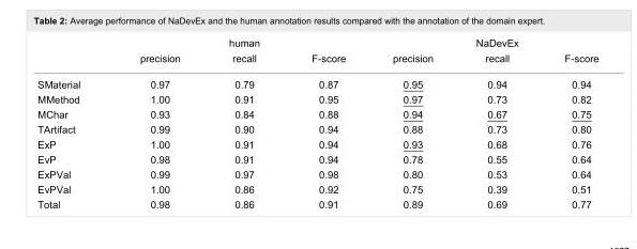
<table><thead><tr><td rowspan="2"></td><td colspan="3">human</td><td colspan="3">NaDevEx</td></tr><tr><td>precision</td><td>recall</td><td>F-score</td><td>precision</td><td>recall</td><td>F-score</td></tr></thead><tbody><tr><td>SMaterial</td><td>0.97</td><td>0.79</td><td>0.87</td><td>0.95</td><td>0.94</td><td>0.94</td></tr><tr><td>MMethod</td><td>1.00</td><td>0.91</td><td>0.95</td><td>0.97</td><td>0.73</td><td>0.82</td></tr><tr><td>MChar</td><td>0.93</td><td>0.84</td><td>0.88</td><td>0.94</td><td>0.67</td><td>0.75</td></tr><tr><td>TArtifact</td><td>0.99</td><td>0.90</td><td>0.94</td><td>0.88</td><td>0.73</td><td>0.80</td></tr><tr><td>ExP</td><td>1.00</td><td>0.91</td><td>0.94</td><td>0.93</td><td>0.68</td><td>0.76</td></tr><tr><td>EvP</td><td>0.98</td><td>0.91</td><td>0.94</td><td>0.78</td><td>0.55</td><td>0.64</td></tr><tr><td>ExPVal</td><td>0.99</td><td>0.97</td><td>0.98</td><td>0.80</td><td>0.53</td><td>0.64</td></tr><tr><td>EvPVal</td><td>1.00</td><td>0.86</td><td>0.92</td><td>0.75</td><td>0.39</td><td>0.51</td></tr><tr><td>Total</td><td>0.98</td><td>0.86</td><td>0.91</td><td>0.89</td><td>0.69</td><td>0.77</td></tr></tbody></table>